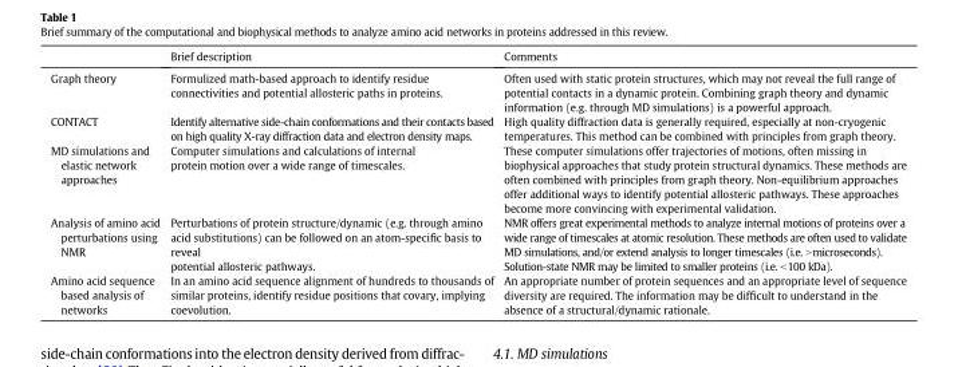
<table><thead><tr><td></td><td>Brief description</td><td>Comments</td></tr></thead><tbody><tr><td>Graph theory</td><td>Formulized math-based approach to identify residue connectivities and potential allosteric paths in proteins.</td><td>Often used with static protein structures, which may not reveal the full range of potential contacts in a dynamic protein. Combining graph theory and dynamic information (e.g. through MD simulations) is a powerful approach.</td></tr><tr><td>CONTACT</td><td>Identify alternative side-chain conformations and their contacts based on high quality X-ray diffraction data and electron density maps.</td><td>High quality diffraction data is generally required, especially at non-cryogenic temperatures. This method can be combined with principles from graph theory.</td></tr><tr><td>MD simulations and elastic network approaches</td><td>Computer simulations and calculations of internal protein motion over a wide range of timescales.</td><td>These computer simulations offer trajectories of motions, often missing in biophysical approaches that study protein structural dynamics. These methods are often combined with principles from graph theory. Non-equilibrium approaches offer additional ways to identify potential allosteric pathways. These approaches become more convincing with experimental validation.</td></tr><tr><td>Analysis of amino acid perturbations using NMR</td><td>Perturbations of protein structure/dynamic (e.g. through amino acid substitutions) can be followed on an atom-specific basis to reveal potential allosteric pathways.</td><td>NMR offers great experimental methods to analyze internal motions of proteins over a wide range of timescales at atomic resolution. These methods are often used to validate MD simulations, and/or extend analysis to longer timescales (i.e. &gt;microseconds). Solution-state NMR may be limited to smaller proteins (i.e. &lt;100 kDa).</td></tr><tr><td>Amino acid sequence based analysis of networks</td><td>In an amino acid sequence alignment of hundreds to thousands of similar proteins, identify residue positions that covary, implying coevolution.</td><td>An appropriate number of protein sequences and an appropriate level of sequence diversity are required. The information may be difficult to understand in the absence of a structural/dynamic rationale.</td></tr></tbody></table>